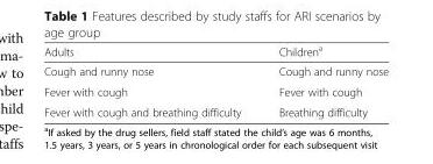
<table><thead><tr><td>Adults</td><td>Children<sup>a</sup></td></tr></thead><tbody><tr><td>Cough and runny nose</td><td>Cough and runny nose</td></tr><tr><td>Fever with cough</td><td>Fever with cough</td></tr><tr><td>Fever with cough and breathing difficulty</td><td>Breathing difficulty</td></tr></tbody></table>